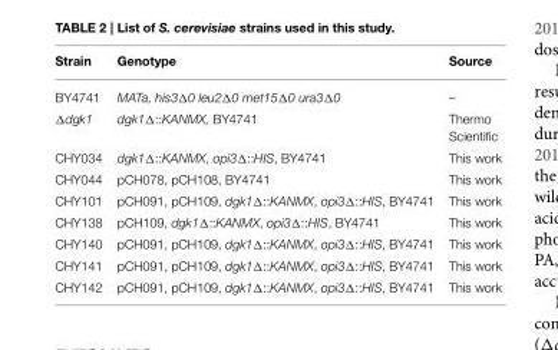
<table><thead><tr><td>Strain</td><td>Genotype</td><td>Source</td></tr></thead><tbody><tr><td>BY4741</td><td>MATa, his3Δ0 leu2Δ0 met15Δ0 ura3Δ0</td><td>–</td></tr><tr><td>Δdgk1</td><td>dgk1Δ::KANMX, BY4741</td><td>Thermo Scientific</td></tr><tr><td>CHY034</td><td>dgk1Δ::KANMX, opi3Δ::HIS, BY4741</td><td>This work</td></tr><tr><td>CHY044</td><td>pCH078, pCH108, BY4741</td><td>This work</td></tr><tr><td>CHY101</td><td>pCH091, pCH109, dgk1Δ::KANMX, opi3Δ::HIS, BY4741</td><td>This work</td></tr><tr><td>CHY138</td><td>pCH109, dgk1Δ::KANMX, opi3Δ::HIS, BY4741</td><td>This work</td></tr><tr><td>CHY140</td><td>pCH091, pCH109, dgk1Δ::KANMX, opi3Δ::HIS, BY4741</td><td>This work</td></tr><tr><td>CHY141</td><td>pCH091, pCH109, dgk1Δ::KANMX, opi3Δ::HIS, BY4741</td><td>This work</td></tr><tr><td>CHY142</td><td>pCH091, pCH109, dgk1Δ::KANMX, opi3Δ::HIS, BY4741</td><td>This work</td></tr></tbody></table>